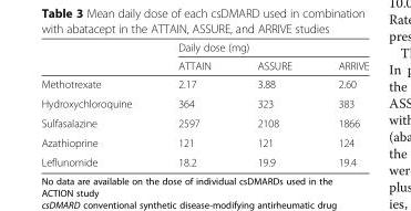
<table><thead><tr><td rowspan="2"></td><td colspan="3">Daily dose (mg)</td></tr><tr><td>ATTAIN</td><td>ASSURE</td><td>ARRIVE</td></tr></thead><tbody><tr><td>Methotrexate</td><td>2.17</td><td>3.88</td><td>2.60</td></tr><tr><td>Hydroxychloroquine</td><td>364</td><td>323</td><td>383</td></tr><tr><td>Sulfasalazine</td><td>2597</td><td>2108</td><td>1866</td></tr><tr><td>Azathioprine</td><td>121</td><td>121</td><td>124</td></tr><tr><td>Leflunomide</td><td>18.2</td><td>19.9</td><td>19.4</td></tr></tbody></table>